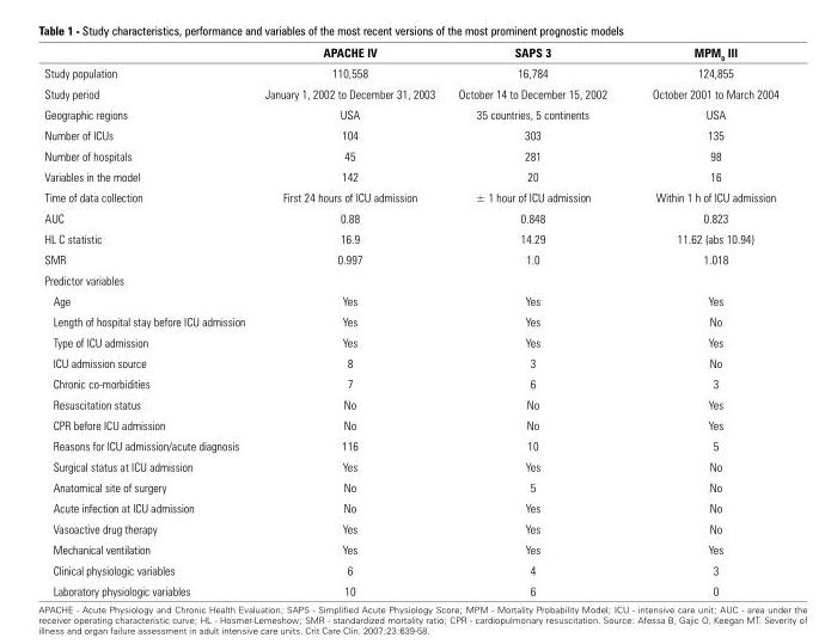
<table><thead><tr><td></td><td>APACHE IV</td><td>SAPS 3</td><td>MPM<sub>0</sub> III</td></tr></thead><tbody><tr><td>Study population</td><td>110,558</td><td>16,784</td><td>124,855</td></tr><tr><td>Study period</td><td>January 1, 2002 to December 31, 2003</td><td>October 14 to December 15, 2002</td><td>October 2001 to March 2004</td></tr><tr><td>Geographic regions</td><td>USA</td><td>35 countries, 5 continents</td><td>USA</td></tr><tr><td>Number of ICUs</td><td>104</td><td>303</td><td>135</td></tr><tr><td>Number of hospitals</td><td>45</td><td>281</td><td>98</td></tr><tr><td>Variables in the model</td><td>142</td><td>20</td><td>16</td></tr><tr><td>Time of data collection</td><td>First 24 hours of ICU admission</td><td>± 1 hour of ICU admission</td><td>Within 1 h of ICU admission</td></tr><tr><td>AUC</td><td>0.88</td><td>0.848</td><td>0.823</td></tr><tr><td>HL C statistic</td><td>16.9</td><td>14.29</td><td>11.62 (abs 10.94)</td></tr><tr><td>SMR</td><td>0.997</td><td>1.0</td><td>1.018</td></tr><tr><td colspan="4">Predictor variables</td></tr><tr><td>Age</td><td>Yes</td><td>Yes</td><td>Yes</td></tr><tr><td>Length of hospital stay before ICU admission</td><td>Yes</td><td>Yes</td><td>No</td></tr><tr><td>Type of ICU admission</td><td>Yes</td><td>Yes</td><td>Yes</td></tr><tr><td>ICU admission source</td><td>8</td><td>3</td><td>No</td></tr><tr><td>Chronic co-morbidities</td><td>7</td><td>6</td><td>3</td></tr><tr><td>Resuscitation status</td><td>No</td><td>No</td><td>Yes</td></tr><tr><td>CPR before ICU admission</td><td>No</td><td>No</td><td>Yes</td></tr><tr><td>Reasons for ICU admission/acute diagnosis</td><td>116</td><td>10</td><td>5</td></tr><tr><td>Surgical status at ICU admission</td><td>Yes</td><td>Yes</td><td>No</td></tr><tr><td>Anatomical site of surgery</td><td>No</td><td>5</td><td>No</td></tr><tr><td>Acute infection at ICU admission</td><td>No</td><td>Yes</td><td>No</td></tr><tr><td>Vasoactive drug therapy</td><td>Yes</td><td>Yes</td><td>No</td></tr><tr><td>Mechanical ventilation</td><td>Yes</td><td>Yes</td><td>Yes</td></tr><tr><td>Clinical physiologic variables</td><td>6</td><td>4</td><td>3</td></tr><tr><td>Laboratory physiologic variables</td><td>10</td><td>6</td><td>0</td></tr></tbody></table>